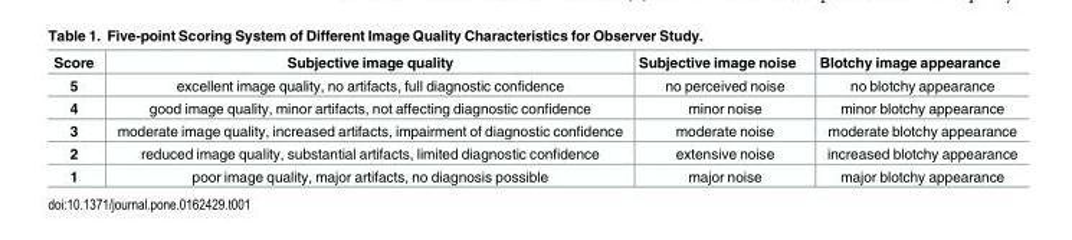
<table><thead><tr><td>Score</td><td>Subjective image quality</td><td>Subjective image noise</td><td>Blotchy image appearance</td></tr></thead><tbody><tr><td>5</td><td>excellent image quality, no artifacts, full diagnostic confidence</td><td>no perceived noise</td><td>no blotchy appearance</td></tr><tr><td>4</td><td>good image quality, minor artifacts, not affecting diagnostic confidence</td><td>minor noise</td><td>minor blotchy appearance</td></tr><tr><td>3</td><td>moderate image quality, increased artifacts, impairment of diagnostic confidence</td><td>moderate noise</td><td>moderate blotchy appearance</td></tr><tr><td>2</td><td>reduced image quality, substantial artifacts, limited diagnostic confidence</td><td>extensive noise</td><td>increased blotchy appearance</td></tr><tr><td>1</td><td>poor image quality, major artifacts, no diagnosis possible</td><td>major noise</td><td>major blotchy appearance</td></tr></tbody></table>